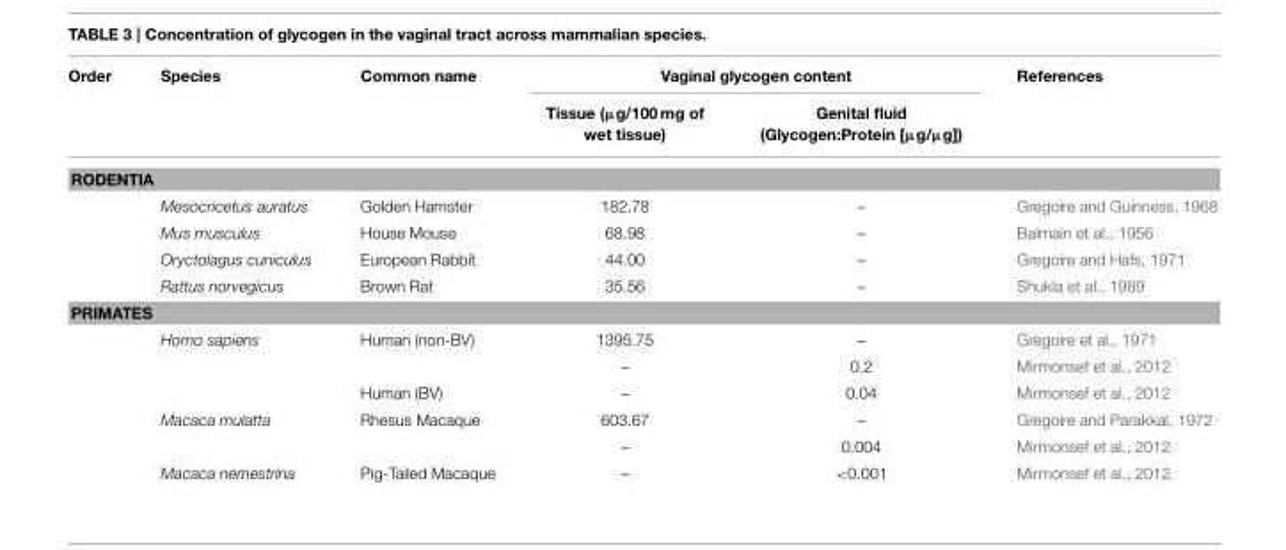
<table><thead><tr><td rowspan="2">Order</td><td rowspan="2">Species</td><td rowspan="2">Common name</td><td colspan="2">Vaginal glycogen content</td><td rowspan="2">References</td></tr><tr><td>Tissue (µg/100 mg of wet tissue)</td><td>Genital fluid (Glycogen:Protein [µg/µg])</td></tr></thead><tbody><tr><td colspan="6">RODENTIA</td></tr><tr><td></td><td>Mesocricetus auratus</td><td>Golden Hamster</td><td>182.78</td><td>–</td><td>Gregoire and Guinness, 1968</td></tr><tr><td></td><td>Mus musculus</td><td>House Mouse</td><td>68.98</td><td>–</td><td>Balmain et al., 1956</td></tr><tr><td></td><td>Oryctolagus cuniculus</td><td>European Rabbit</td><td>44.00</td><td>–</td><td>Gregoire and Hafs, 1971</td></tr><tr><td></td><td>Rattus norvegicus</td><td>Brown Rat</td><td>35.56</td><td>–</td><td>Shukla et al., 1989</td></tr><tr><td colspan="6">PRIMATES</td></tr><tr><td></td><td>Homo sapiens</td><td>Human (non-BV)</td><td>1395.75</td><td>–</td><td>Gregoire et al., 1971</td></tr><tr><td></td><td></td><td></td><td>–</td><td>0.2</td><td>Mirmonsef et al., 2012</td></tr><tr><td></td><td></td><td>Human (BV)</td><td>–</td><td>0.04</td><td>Mirmonsef et al., 2012</td></tr><tr><td></td><td>Macaca mulatta</td><td>Rhesus Macaque</td><td>603.67</td><td>–</td><td>Gregoire and Parakkal, 1972</td></tr><tr><td></td><td></td><td></td><td>–</td><td>0.004</td><td>Mirmonsef et al., 2012</td></tr><tr><td></td><td>Macaca nemestrina</td><td>Pig-Tailed Macaque</td><td>–</td><td>&lt;0.001</td><td>Mirmonsef et al., 2012</td></tr></tbody></table>